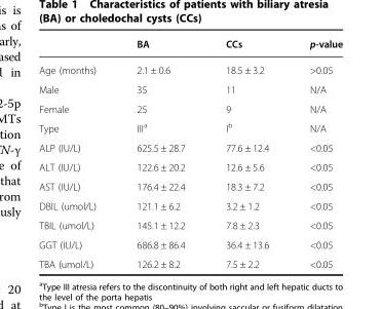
<table><thead><tr><td></td><td>BA</td><td>CCs</td><td>p-value</td></tr></thead><tbody><tr><td>Age (months)</td><td>2.1 ± 0.6</td><td>18.5 ± 3.2</td><td>&gt;0.05</td></tr><tr><td>Male</td><td>35</td><td>11</td><td>N/A</td></tr><tr><td>Female</td><td>25</td><td>9</td><td>N/A</td></tr><tr><td>Type</td><td>III<sup>a</sup></td><td>I<sup>b</sup></td><td>N/A</td></tr><tr><td>ALP (IU/L)</td><td>625.5 ± 28.7</td><td>77.6 ± 12.4</td><td>&lt;0.05</td></tr><tr><td>ALT (IU/L)</td><td>122.6 ± 20.2</td><td>12.6 ± 5.6</td><td>&lt;0.05</td></tr><tr><td>AST (IU/L)</td><td>176.4 ± 22.4</td><td>18.3 ± 7.2</td><td>&lt;0.05</td></tr><tr><td>DBIL (umol/L)</td><td>121.1 ± 6.2</td><td>3.2 ± 1.2</td><td>&lt;0.05</td></tr><tr><td>TBIL (umol/L)</td><td>145.1 ± 12.2</td><td>7.8 ± 2.3</td><td>&lt;0.05</td></tr><tr><td>GGT (IU/L)</td><td>686.8 ± 86.4</td><td>36.4 ± 13.6</td><td>&lt;0.05</td></tr><tr><td>TBA (umol/L)</td><td>126.2 ± 8.2</td><td>7.5 ± 2.2</td><td>&lt;0.05</td></tr></tbody></table>